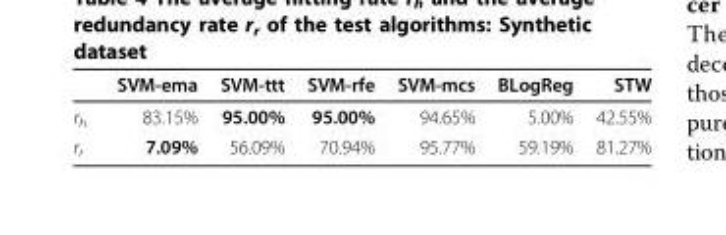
<table><thead><tr><td></td><td>SVM-ema</td><td>SVM-ttt</td><td>SVM-rfe</td><td>SVM-mcs</td><td>BLogReg</td><td>STW</td></tr></thead><tbody><tr><td>r<sub>h</sub></td><td>83.15%</td><td>95.00%</td><td>95.00%</td><td>94.65%</td><td>5.00%</td><td>42.55%</td></tr><tr><td>r<sub>r</sub></td><td>7.09%</td><td>56.09%</td><td>70.94%</td><td>95.77%</td><td>59.19%</td><td>81.27%</td></tr></tbody></table>